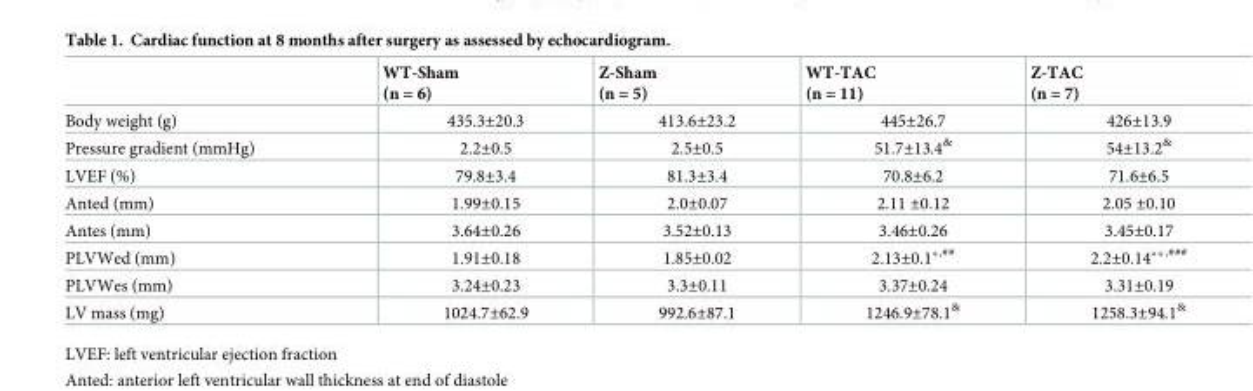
<table><thead><tr><td></td><td>WT-Sham (n = 6)</td><td>Z-Sham (n = 5)</td><td>WT-TAC (n = 11)</td><td>Z-TAC (n = 7)</td></tr></thead><tbody><tr><td>Body weight (g)</td><td>435.3±20.3</td><td>413.6±23.2</td><td>445±26.7</td><td>426±13.9</td></tr><tr><td>Pressure gradient (mmHg)</td><td>2.2±0.5</td><td>2.5±0.5</td><td>51.7±13.4<sup>&amp;</sup></td><td>54±13.2<sup>&amp;</sup></td></tr><tr><td>LVEF (%)</td><td>79.8±3.4</td><td>81.3±3.4</td><td>70.8±6.2</td><td>71.6±6.5</td></tr><tr><td>Anted (mm)</td><td>1.99±0.15</td><td>2.0±0.07</td><td>2.11 ±0.12</td><td>2.05 ±0.10</td></tr><tr><td>Antes (mm)</td><td>3.64±0.26</td><td>3.52±0.13</td><td>3.46±0.26</td><td>3.45±0.17</td></tr><tr><td>PLVWed (mm)</td><td>1.91±0.18</td><td>1.85±0.02</td><td>2.13±0.1*<sup>,##</sup></td><td>2.2±0.14**<sup>,###</sup></td></tr><tr><td>PLVWes (mm)</td><td>3.24±0.23</td><td>3.3±0.11</td><td>3.37±0.24</td><td>3.31±0.19</td></tr><tr><td>LV mass (mg)</td><td>1024.7±62.9</td><td>992.6±87.1</td><td>1246.9±78.1<sup>&amp;</sup></td><td>1258.3±94.1<sup>&amp;</sup></td></tr></tbody></table>